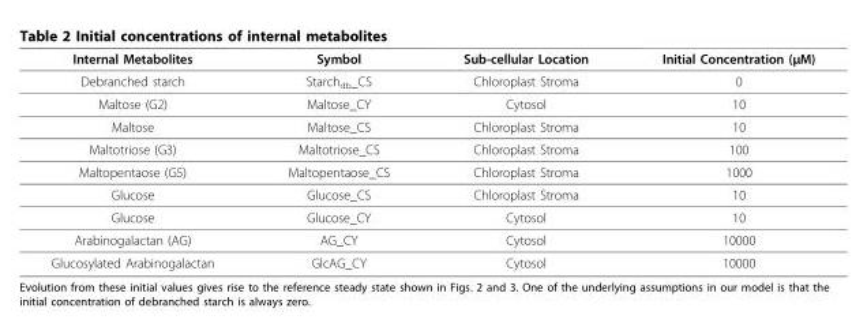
<table><thead><tr><td>Internal Metabolites</td><td>Symbol</td><td>Sub-cellular Location</td><td>Initial Concentration (μM)</td></tr></thead><tbody><tr><td>Debranched starch</td><td>Starchdb_CS</td><td>Chloroplast Stroma</td><td>0</td></tr><tr><td>Maltose (G2)</td><td>Maltose_CY</td><td>Cytosol</td><td>10</td></tr><tr><td>Maltose</td><td>Maltose_CS</td><td>Chloroplast Stroma</td><td>10</td></tr><tr><td>Maltotriose (G3)</td><td>Maltotriose_CS</td><td>Chloroplast Stroma</td><td>100</td></tr><tr><td>Maltopentaose (G5)</td><td>Maltopentaose_CS</td><td>Chloroplast Stroma</td><td>1000</td></tr><tr><td>Glucose</td><td>Glucose_CS</td><td>Chloroplast Stroma</td><td>10</td></tr><tr><td>Glucose</td><td>Glucose_CY</td><td>Cytosol</td><td>10</td></tr><tr><td>Arabinogalactan (AG)</td><td>AG_CY</td><td>Cytosol</td><td>10000</td></tr><tr><td>Glucosylated Arabinogalactan</td><td>GlcAG_CY</td><td>Cytosol</td><td>10000</td></tr></tbody></table>